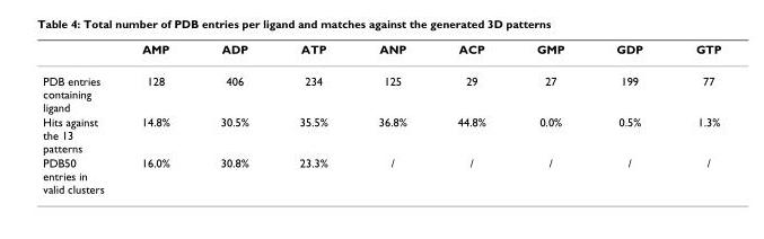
<table><thead><tr><td></td><td>AMP</td><td>ADP</td><td>ATP</td><td>ANP</td><td>ACP</td><td>GMP</td><td>GDP</td><td>GTP</td></tr></thead><tbody><tr><td>PDB entries containing ligand</td><td>128</td><td>406</td><td>234</td><td>125</td><td>29</td><td>27</td><td>199</td><td>77</td></tr><tr><td>Hits against the 13 patterns</td><td>14.8%</td><td>30.5%</td><td>35.5%</td><td>36.8%</td><td>44.8%</td><td>0.0%</td><td>0.5%</td><td>1.3%</td></tr><tr><td>PDB50 entries in valid clusters</td><td>16.0%</td><td>30.8%</td><td>23.3%</td><td>/</td><td>/</td><td>/</td><td>/</td><td>/</td></tr></tbody></table>